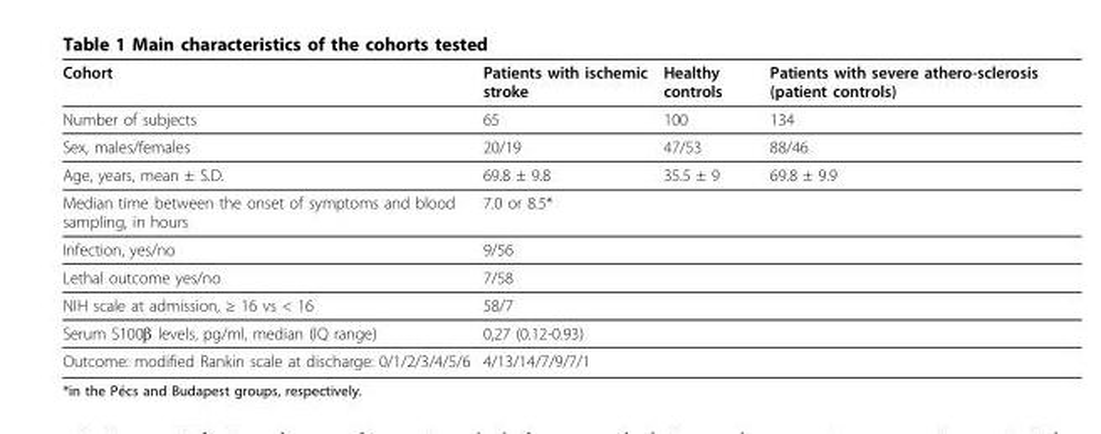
<table><thead><tr><td>Cohort</td><td>Patients with ischemic stroke</td><td>Healthy controls</td><td>Patients with severe athero-sclerosis (patient controls)</td></tr></thead><tbody><tr><td>Number of subjects</td><td>65</td><td>100</td><td>134</td></tr><tr><td>Sex, males/females</td><td>20/19</td><td>47/53</td><td>88/46</td></tr><tr><td>Age, years, mean ± S.D.</td><td>69.8 ± 9.8</td><td>35.5 ± 9</td><td>69.8 ± 9.9</td></tr><tr><td>Median time between the onset of symptoms and blood sampling, in hours</td><td>7.0 or 8.5*</td><td></td><td></td></tr><tr><td>Infection, yes/no</td><td>9/56</td><td></td><td></td></tr><tr><td>Lethal outcome yes/no</td><td>7/58</td><td></td><td></td></tr><tr><td>NIH scale at admission, ≥ 16 vs &lt; 16</td><td>58/7</td><td></td><td></td></tr><tr><td>Serum S100β levels, pg/ml, median (IQ range)</td><td>0,27 (0.12-0.93)</td><td></td><td></td></tr><tr><td>Outcome: modified Rankin scale at discharge: 0/1/2/3/4/5/6</td><td>4/13/14/7/9/7/1</td><td></td><td></td></tr></tbody></table>